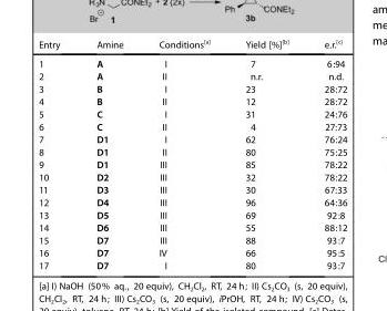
<table><thead><tr><td>Entry</td><td>Amine</td><td>Conditions<sup>[a]</sup></td><td>Yield [%]<sup>[b]</sup></td><td>e.r.<sup>[c]</sup></td></tr></thead><tbody><tr><td>1</td><td>A</td><td>I</td><td>7</td><td>6:94</td></tr><tr><td>2</td><td>A</td><td>II</td><td>n.r.</td><td>n.d.</td></tr><tr><td>3</td><td>B</td><td>I</td><td>23</td><td>28:72</td></tr><tr><td>4</td><td>B</td><td>II</td><td>12</td><td>28:72</td></tr><tr><td>5</td><td>C</td><td>I</td><td>31</td><td>24:76</td></tr><tr><td>6</td><td>C</td><td>II</td><td>4</td><td>27:73</td></tr><tr><td>7</td><td>D1</td><td>I</td><td>62</td><td>76:24</td></tr><tr><td>8</td><td>D1</td><td>II</td><td>80</td><td>75:25</td></tr><tr><td>9</td><td>D1</td><td>III</td><td>85</td><td>78:22</td></tr><tr><td>10</td><td>D2</td><td>III</td><td>32</td><td>78:22</td></tr><tr><td>11</td><td>D3</td><td>III</td><td>30</td><td>67:33</td></tr><tr><td>12</td><td>D4</td><td>III</td><td>96</td><td>64:36</td></tr><tr><td>13</td><td>D5</td><td>III</td><td>69</td><td>92:8</td></tr><tr><td>14</td><td>D6</td><td>III</td><td>55</td><td>88:12</td></tr><tr><td>15</td><td>D7</td><td>III</td><td>88</td><td>93:7</td></tr><tr><td>16</td><td>D7</td><td>IV</td><td>66</td><td>95:5</td></tr><tr><td>17</td><td>D7</td><td>I</td><td>80</td><td>93:7</td></tr></tbody></table>